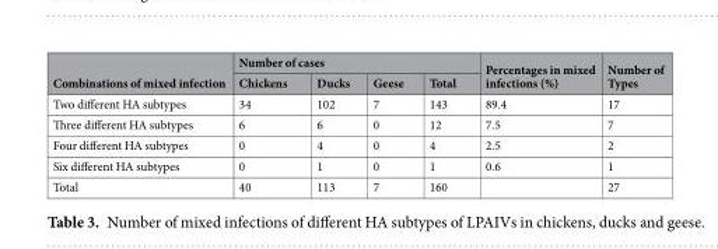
<table><thead><tr><td rowspan="2">Combinations of mixed infection</td><td colspan="4">Number of cases</td><td rowspan="2">Percentages in mixed infections (%)</td><td rowspan="2">Number of Types</td></tr><tr><td>Chickens</td><td>Ducks</td><td>Geese</td><td>Total</td></tr></thead><tbody><tr><td>Two different HA subtypes</td><td>34</td><td>102</td><td>7</td><td>143</td><td>89.4</td><td>17</td></tr><tr><td>Three different HA subtypes</td><td>6</td><td>6</td><td>0</td><td>12</td><td>7.5</td><td>7</td></tr><tr><td>Four different HA subtypes</td><td>0</td><td>4</td><td>0</td><td>4</td><td>2.5</td><td>2</td></tr><tr><td>Six different HA subtypes</td><td>0</td><td>1</td><td>0</td><td>1</td><td>0.6</td><td>1</td></tr><tr><td>Total</td><td>40</td><td>113</td><td>7</td><td>160</td><td></td><td>27</td></tr></tbody></table>